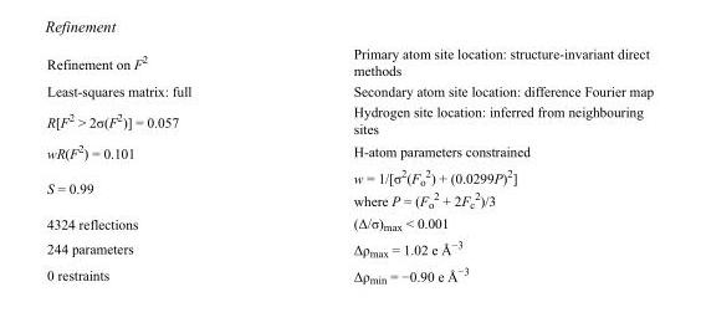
<table><tbody><tr><td>Refinement on F<sup>2</sup></td><td>Primary atom site location: structure-invariant direct methods</td></tr><tr><td>Least-squares matrix: full</td><td>Secondary atom site location: difference Fourier map</td></tr><tr><td>R[F<sup>2</sup> &gt; 2σ(F<sup>2</sup>)] = 0.057</td><td>Hydrogen site location: inferred from neighbouring sites</td></tr><tr><td>wR(F<sup>2</sup>) = 0.101</td><td>H-atom parameters constrained</td></tr><tr><td>S = 0.99</td><td>w = 1/[σ<sup>2</sup>(F<sub>o</sub> <sup>2</sup>) + (0.0299P)<sup>2</sup>] where P = (F<sub>o</sub> <sup>2</sup> + 2F<sub>c</sub> <sup>2</sup>)/3</td></tr><tr><td>4324 reflections</td><td>(Δ/σ)<sub>max</sub> &lt; 0.001</td></tr><tr><td>244 parameters</td><td>Δρ<sub>max</sub> = 1.02 e Å<sup>−3</sup></td></tr><tr><td>0 restraints</td><td>Δρ<sub>min</sub> = −0.90 e Å<sup>−3</sup></td></tr></tbody></table>